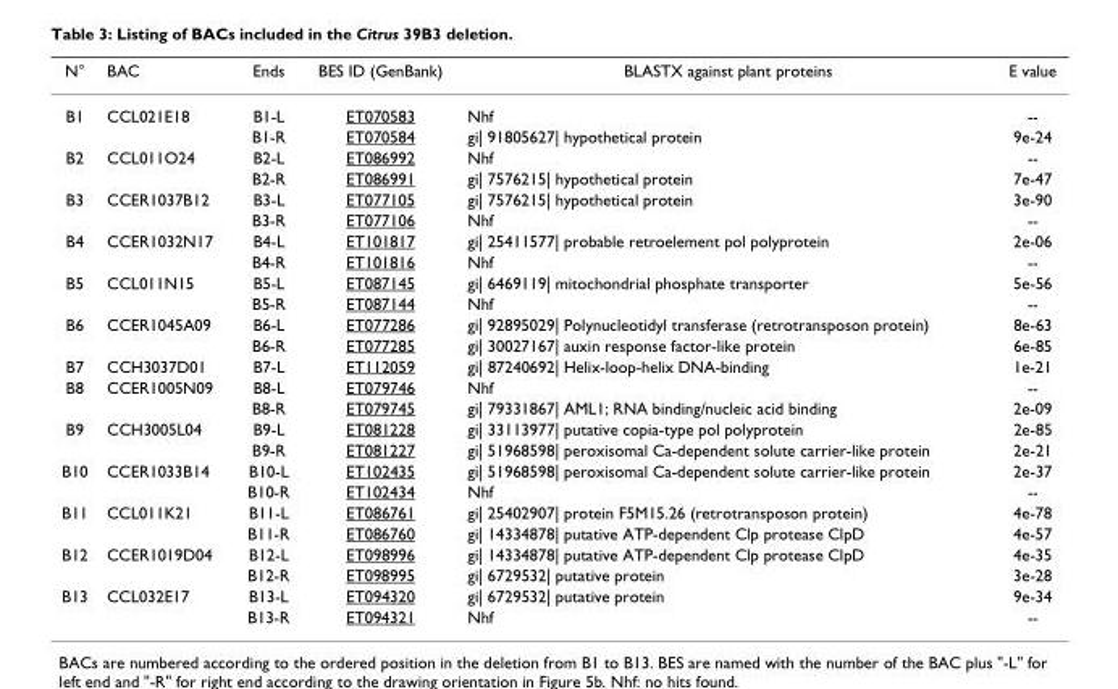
<table><thead><tr><td>N°</td><td>BAC</td><td>Ends</td><td>BES ID (GenBank)</td><td>BLASTX against plant proteins</td><td>E value</td></tr></thead><tbody><tr><td rowspan="2">B1</td><td>CCL021E18</td><td>B1-L</td><td>ET070583</td><td>Nhf</td><td>--</td></tr><tr><td></td><td>B1-R</td><td>ET070584</td><td>gi| 91805627| hypothetical protein</td><td>9e-24</td></tr><tr><td rowspan="2">B2</td><td>CCL011O24</td><td>B2-L</td><td>ET086992</td><td>Nhf</td><td>--</td></tr><tr><td></td><td>B2-R</td><td>ET086991</td><td>gi| 7576215| hypothetical protein</td><td>7e-47</td></tr><tr><td rowspan="2">B3</td><td>CCER1037B12</td><td>B3-L</td><td>ET077105</td><td>gi| 7576215| hypothetical protein</td><td>3e-90</td></tr><tr><td></td><td>B3-R</td><td>ET077106</td><td>Nhf</td><td>--</td></tr><tr><td rowspan="2">B4</td><td>CCER1032N17</td><td>B4-L</td><td>ET101817</td><td>gi| 25411577| probable retroelement pol polyprotein</td><td>2e-06</td></tr><tr><td></td><td>B4-R</td><td>ET101816</td><td>Nhf</td><td>--</td></tr><tr><td rowspan="2">B5</td><td>CCL011N15</td><td>B5-L</td><td>ET087145</td><td>gi| 6469119| mitochondrial phosphate transporter</td><td>5e-56</td></tr><tr><td></td><td>B5-R</td><td>ET087144</td><td>Nhf</td><td>--</td></tr><tr><td rowspan="2">B6</td><td>CCER1045A09</td><td>B6-L</td><td>ET077286</td><td>gi| 92895029| Polynucleotidyl transferase (retrotransposon protein)</td><td>8e-63</td></tr><tr><td></td><td>B6-R</td><td>ET077285</td><td>gi| 30027167| auxin response factor-like protein</td><td>6e-85</td></tr><tr><td>B7</td><td>CCH3037D01</td><td>B7-L</td><td>ET112059</td><td>gi| 87240692| Helix-loop-helix DNA-binding</td><td>1e-21</td></tr><tr><td rowspan="2">B8</td><td>CCER1005N09</td><td>B8-L</td><td>ET079746</td><td>Nhf</td><td>--</td></tr><tr><td></td><td>B8-R</td><td>ET079745</td><td>gi| 79331867| AML1; RNA binding/nucleic acid binding</td><td>2e-09</td></tr><tr><td rowspan="2">B9</td><td>CCH3005L04</td><td>B9-L</td><td>ET081228</td><td>gi| 33113977| putative copia-type pol polyprotein</td><td>2e-85</td></tr><tr><td></td><td>B9-R</td><td>ET081227</td><td>gi| 51968598| peroxisomal Ca-dependent solute carrier-like protein</td><td>2e-21</td></tr><tr><td rowspan="2">B10</td><td>CCER1033B14</td><td>B10-L</td><td>ET102435</td><td>gi| 51968598| peroxisomal Ca-dependent solute carrier-like protein</td><td>2e-37</td></tr><tr><td></td><td>B10-R</td><td>ET102434</td><td>Nhf</td><td>--</td></tr><tr><td rowspan="2">B11</td><td>CCL011K21</td><td>B11-L</td><td>ET086761</td><td>gi| 25402907| protein F5M15.26 (retrotransposon protein)</td><td>4e-78</td></tr><tr><td></td><td>B11-R</td><td>ET086760</td><td>gi| 14334878| putative ATP-dependent Clp protease ClpD</td><td>4e-57</td></tr><tr><td rowspan="2">B12</td><td>CCER1019D04</td><td>B12-L</td><td>ET098996</td><td>gi| 14334878| putative ATP-dependent Clp protease ClpD</td><td>4e-35</td></tr><tr><td></td><td>B12-R</td><td>ET098995</td><td>gi| 6729532| putative protein</td><td>3e-28</td></tr><tr><td rowspan="2">B13</td><td>CCL032E17</td><td>B13-L</td><td>ET094320</td><td>gi| 6729532| putative protein</td><td>9e-34</td></tr><tr><td></td><td>B13-R</td><td>ET094321</td><td>Nhf</td><td>--</td></tr></tbody></table>